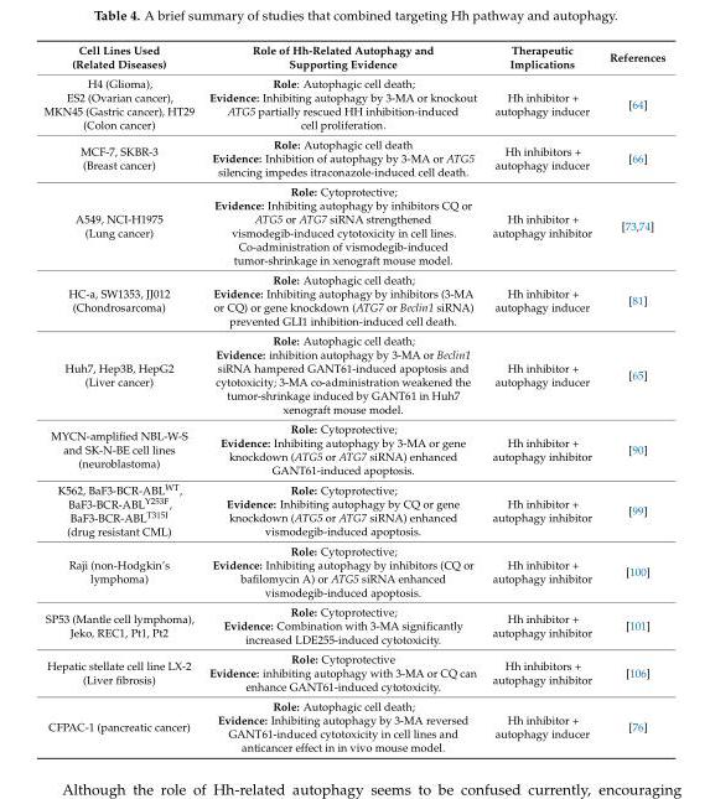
<table><thead><tr><td>Cell Lines Used (Related Diseases)</td><td>Role of Hh-Related Autophagy and Supporting Evidence</td><td>Therapeutic Implications</td><td>References</td></tr></thead><tbody><tr><td>H4 (Glioma), ES2 (Ovarian cancer), MKN45 (Gastric cancer), HT29 (Colon cancer)</td><td>Role: Autophagic cell death; Evidence: Inhibiting autophagy by 3-MA or knockout ATG5 partially rescued HH inhibition-induced cell proliferation.</td><td>Hh inhibitor + autophagy inducer</td><td>[64]</td></tr><tr><td>MCF-7, SKBR-3 (Breast cancer)</td><td>Role: Autophagic cell death Evidence: Inhibition of autophagy by 3-MA or ATG5 silencing impedes itraconazole-induced cell death.</td><td>Hh inhibitors + autophagy inducer</td><td>[66]</td></tr><tr><td>A549, NCI-H1975 (Lung cancer)</td><td>Role: Cytoprotective; Evidence: Inhibiting autophagy by inhibitors CQ or ATG5 or ATG7 siRNA strengthened vismodegib-induced cytotoxicity in cell lines. Co-administration of vismodegib-induced tumor-shrinkage in xenograft mouse model.</td><td>Hh inhibitor + autophagy inhibitor</td><td>[73,74]</td></tr><tr><td>HC-a, SW1353, JJ012 (Chondrosarcoma)</td><td>Role: Autophagic cell death; Evidence: Inhibiting autophagy by inhibitors (3-MA or CQ) or gene knockdown (ATG7 or Beclin1 siRNA) prevented GLI1 inhibition-induced cell death.</td><td>Hh inhibitor + autophagy inducer</td><td>[81]</td></tr><tr><td>Huh7, Hep3B, HepG2 (Liver cancer)</td><td>Role: Autophagic cell death; Evidence: inhibition autophagy by 3-MA or Beclin1 siRNA hampered GANT61-induced apoptosis and cytotoxicity; 3-MA co-administration weakened the tumor-shrinkage induced by GANT61 in Huh7 xenograft mouse model.</td><td>Hh inhibitor + autophagy inducer</td><td>[65]</td></tr><tr><td>MYCN-amplified NBL-W-S and SK-N-BE cell lines (neuroblastoma)</td><td>Role: Cytoprotective; Evidence: Inhibiting autophagy by 3-MA or gene knockdown (ATG5 or ATG7 siRNA) enhanced GANT61-induced apoptosis.</td><td>Hh inhibitor + autophagy inhibitor</td><td>[90]</td></tr><tr><td>K562, BaF3-BCR-ABL<sup>WT</sup>, BaF3-BCR-ABL<sup>Y253F</sup>, BaF3-BCR-ABL<sup>T315I</sup> (drug resistant CML)</td><td>Role: Cytoprotective; Evidence: Inhibiting autophagy by CQ or gene knockdown (ATG5 or ATG7 siRNA) enhanced vismodegib-induced apoptosis.</td><td>Hh inhibitor + autophagy inhibitor</td><td>[99]</td></tr><tr><td>Raji (non-Hodgkin’s lymphoma)</td><td>Role: Cytoprotective; Evidence: Inhibiting autophagy by inhibitors (CQ or bafilomycin A) or ATG5 siRNA enhanced vismodegib-induced apoptosis.</td><td>Hh inhibitor + autophagy inhibitor</td><td>[100]</td></tr><tr><td>SP53 (Mantle cell lymphoma), Jeko, REC1, Pt1, Pt2</td><td>Role: Cytoprotective; Evidence: Combination with 3-MA significantly increased LDE255-induced cytotoxicity.</td><td>Hh inhibitor + autophagy inhibitor</td><td>[101]</td></tr><tr><td>Hepatic stellate cell line LX-2 (Liver fibrosis)</td><td>Role: Cytoprotective Evidence: inhibiting autophagy with 3-MA or CQ can enhance GANT61-induced cytotoxicity.</td><td>Hh inhibitors + autophagy inhibitor</td><td>[106]</td></tr><tr><td>CFPAC-1 (pancreatic cancer)</td><td>Role: Autophagic cell death; Evidence: Inhibiting autophagy by 3-MA reversed GANT61-induced cytotoxicity in cell lines and anticancer effect in in vivo mouse model.</td><td>Hh inhibitor + autophagy inducer</td><td>[76]</td></tr></tbody></table>